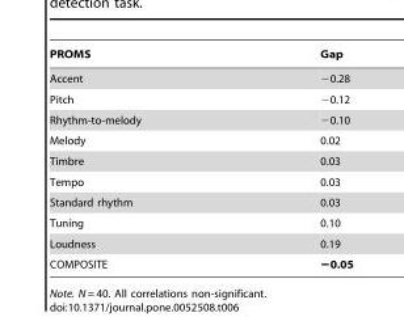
<table><thead><tr><td>PROMS</td><td>Gap</td></tr></thead><tbody><tr><td>Accent</td><td>−0.28</td></tr><tr><td>Pitch</td><td>−0.12</td></tr><tr><td>Rhythm-to-melody</td><td>−0.10</td></tr><tr><td>Melody</td><td>0.02</td></tr><tr><td>Timbre</td><td>0.03</td></tr><tr><td>Tempo</td><td>0.03</td></tr><tr><td>Standard rhythm</td><td>0.03</td></tr><tr><td>Tuning</td><td>0.10</td></tr><tr><td>Loudness</td><td>0.19</td></tr><tr><td>COMPOSITE</td><td>−0.05</td></tr></tbody></table>